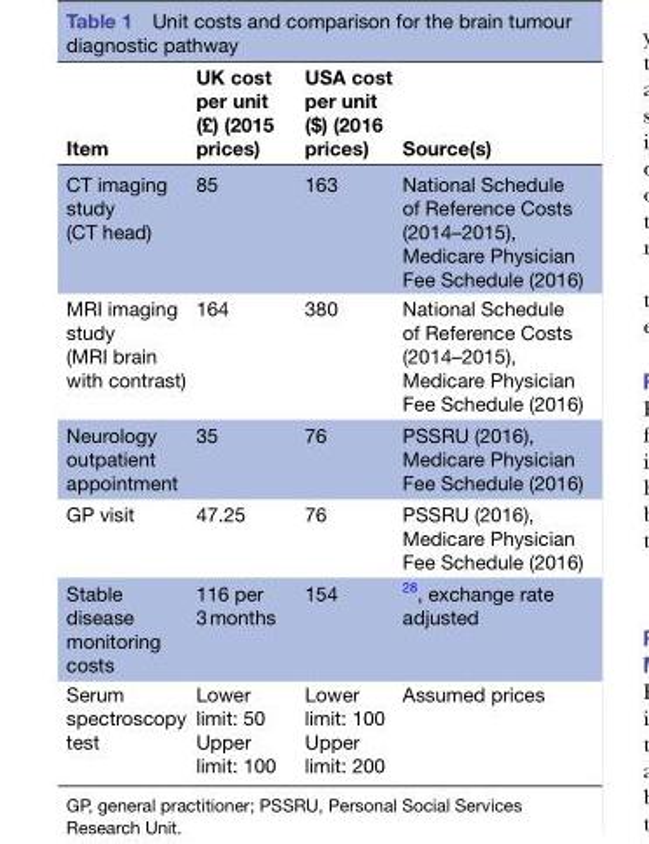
<table><thead><tr><td>Item</td><td>UK cost per unit (£) (2015 prices)</td><td>USA cost per unit ($) (2016 prices)</td><td>Source(s)</td></tr></thead><tbody><tr><td>CT imaging study (CT head)</td><td>85</td><td>163</td><td>National Schedule of Reference Costs (2014–2015), Medicare Physician Fee Schedule (2016)</td></tr><tr><td>MRI imaging study (MRI brain with contrast)</td><td>164</td><td>380</td><td>National Schedule of Reference Costs (2014–2015), Medicare Physician Fee Schedule (2016)</td></tr><tr><td>Neurology outpatient appointment</td><td>35</td><td>76</td><td>PSSRU (2016), Medicare Physician Fee Schedule (2016)</td></tr><tr><td>GP visit</td><td>47.25</td><td>76</td><td>PSSRU (2016), Medicare Physician Fee Schedule (2016)</td></tr><tr><td>Stable disease monitoring costs</td><td>116 per 3 months</td><td>154</td><td>28, exchange rate adjusted</td></tr><tr><td>Serum spectroscopy test</td><td>Lower limit: 50 Upper limit: 100</td><td>Lower limit: 100 Upper limit: 200</td><td>Assumed prices</td></tr></tbody></table>